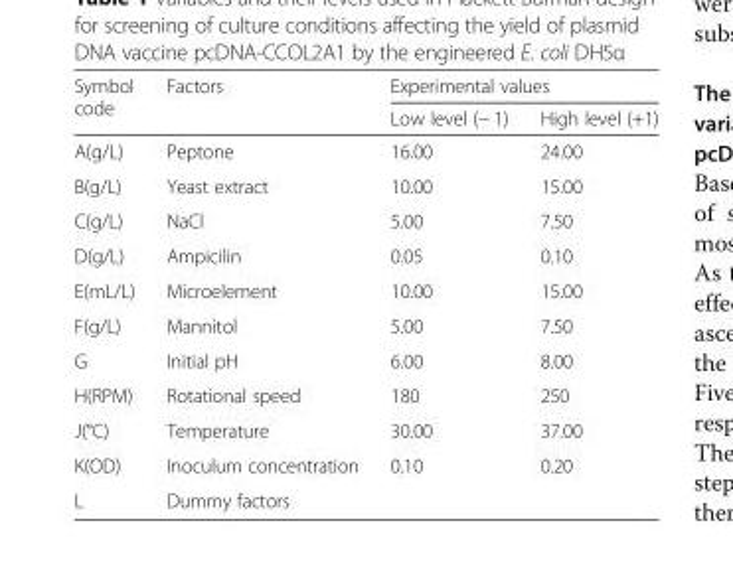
<table><thead><tr><td rowspan="2">Symbol code</td><td rowspan="2">Factors</td><td colspan="2">Experimental values</td></tr><tr><td>Low level (− 1)</td><td>High level (+1)</td></tr></thead><tbody><tr><td>A(g/L)</td><td>Peptone</td><td>16.00</td><td>24.00</td></tr><tr><td>B(g/L)</td><td>Yeast extract</td><td>10.00</td><td>15.00</td></tr><tr><td>C(g/L)</td><td>NaCl</td><td>5.00</td><td>7.50</td></tr><tr><td>D(g/L)</td><td>Ampicilin</td><td>0.05</td><td>0.10</td></tr><tr><td>E(mL/L)</td><td>Microelement</td><td>10.00</td><td>15.00</td></tr><tr><td>F(g/L)</td><td>Mannitol</td><td>5.00</td><td>7.50</td></tr><tr><td>G</td><td>Initial pH</td><td>6.00</td><td>8.00</td></tr><tr><td>H(RPM)</td><td>Rotational speed</td><td>180</td><td>250</td></tr><tr><td>J(°C)</td><td>Temperature</td><td>30.00</td><td>37.00</td></tr><tr><td>K(OD)</td><td>Inoculum concentration</td><td>0.10</td><td>0.20</td></tr><tr><td>L</td><td>Dummy factors</td><td></td><td></td></tr></tbody></table>